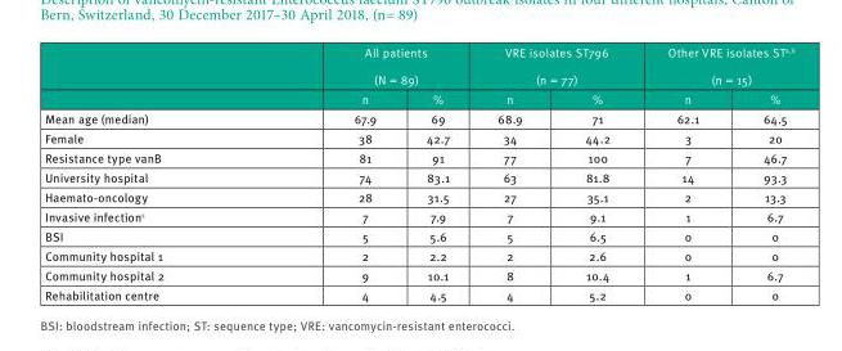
<table><thead><tr><td rowspan="2"></td><td colspan="2">All patients (N = 89)</td><td colspan="2">VRE isolates ST796 (n = 77)</td><td colspan="2">Other VRE isolates ST<sup>a,b</sup> (n = 15)</td></tr><tr><td>n</td><td>%</td><td>n</td><td>%</td><td>n</td><td>%</td></tr></thead><tbody><tr><td>Mean age (median)</td><td>67.9</td><td>69</td><td>68.9</td><td>71</td><td>62.1</td><td>64.5</td></tr><tr><td>Female</td><td>38</td><td>42.7</td><td>34</td><td>44.2</td><td>3</td><td>20</td></tr><tr><td>Resistance type vanB</td><td>81</td><td>91</td><td>77</td><td>100</td><td>7</td><td>46.7</td></tr><tr><td>University hospital</td><td>74</td><td>83.1</td><td>63</td><td>81.8</td><td>14</td><td>93.3</td></tr><tr><td>Haemato-oncology</td><td>28</td><td>31.5</td><td>27</td><td>35.1</td><td>2</td><td>13.3</td></tr><tr><td>Invasive infection<sup>c</sup></td><td>7</td><td>7.9</td><td>7</td><td>9.1</td><td>1</td><td>6.7</td></tr><tr><td>BSI</td><td>5</td><td>5.6</td><td>5</td><td>6.5</td><td>0</td><td>0</td></tr><tr><td>Community hospital 1</td><td>2</td><td>2.2</td><td>2</td><td>2.6</td><td>0</td><td>0</td></tr><tr><td>Community hospital 2</td><td>9</td><td>10.1</td><td>8</td><td>10.4</td><td>1</td><td>6.7</td></tr><tr><td>Rehabilitation centre</td><td>4</td><td>4.5</td><td>4</td><td>5.2</td><td>0</td><td>0</td></tr></tbody></table>